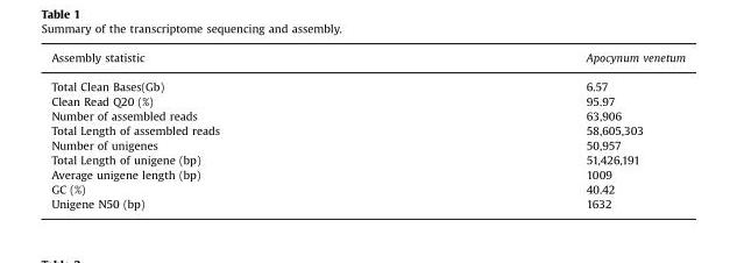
<table><thead><tr><td>Assembly statistic</td><td>Apocynum venetum</td></tr></thead><tbody><tr><td>Total Clean Bases(Gb)</td><td>6.57</td></tr><tr><td>Clean Read Q20 (%)</td><td>95.97</td></tr><tr><td>Number of assembled reads</td><td>63,906</td></tr><tr><td>Total Length of assembled reads</td><td>58,605,303</td></tr><tr><td>Number of unigenes</td><td>50,957</td></tr><tr><td>Total Length of unigene (bp)</td><td>51,426,191</td></tr><tr><td>Average unigene length (bp)</td><td>1009</td></tr><tr><td>GC (%)</td><td>40.42</td></tr><tr><td>Unigene N50 (bp)</td><td>1632</td></tr></tbody></table>